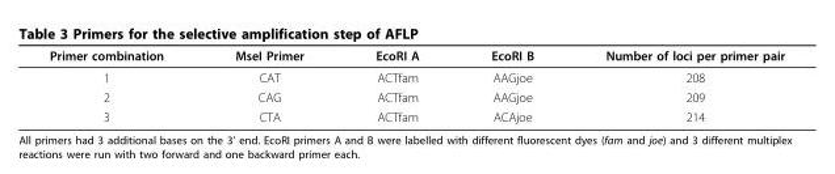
<table><thead><tr><td>Primer combination</td><td>MseI Primer</td><td>EcoRI A</td><td>EcoRI B</td><td>Number of loci per primer pair</td></tr></thead><tbody><tr><td>1</td><td>CAT</td><td>ACTfam</td><td>AAGjoe</td><td>208</td></tr><tr><td>2</td><td>CAG</td><td>ACTfam</td><td>AAGjoe</td><td>209</td></tr><tr><td>3</td><td>CTA</td><td>ACTfam</td><td>ACAjoe</td><td>214</td></tr></tbody></table>